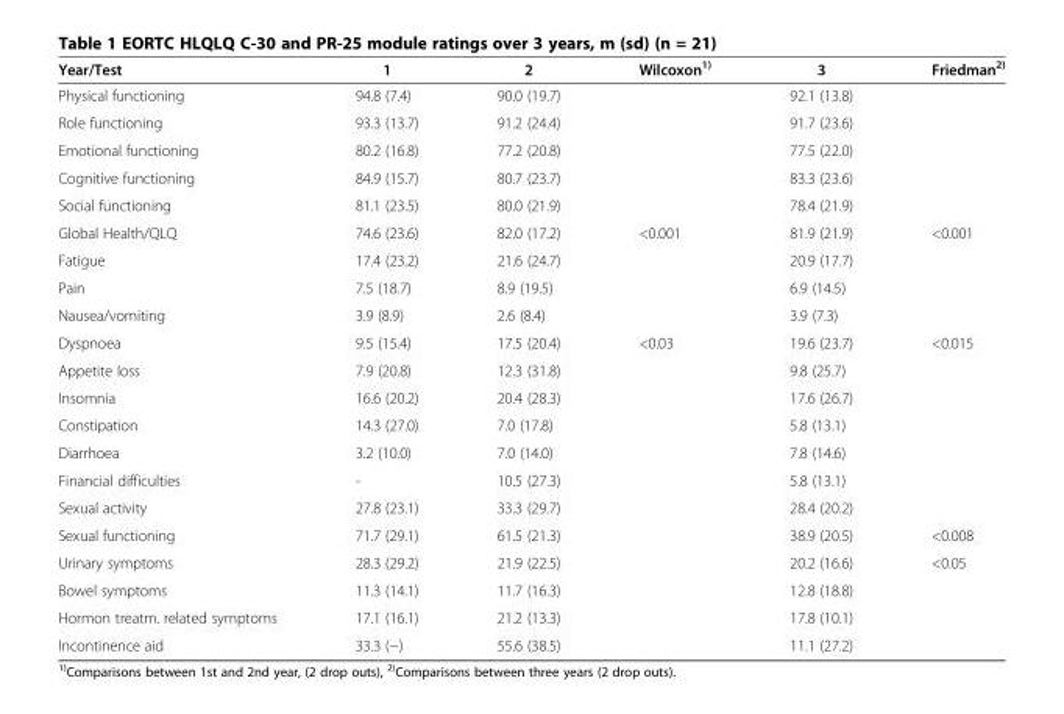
<table><thead><tr><td>Year/Test</td><td>1</td><td>2</td><td>Wilcoxon<sup>1)</sup></td><td>3</td><td>Friedman<sup>2)</sup></td></tr></thead><tbody><tr><td>Physical functioning</td><td>94.8 (7.4)</td><td>90.0 (19.7)</td><td></td><td>92.1 (13.8)</td><td></td></tr><tr><td>Role functioning</td><td>93.3 (13.7)</td><td>91.2 (24.4)</td><td></td><td>91.7 (23.6)</td><td></td></tr><tr><td>Emotional functioning</td><td>80.2 (16.8)</td><td>77.2 (20.8)</td><td></td><td>77.5 (22.0)</td><td></td></tr><tr><td>Cognitive functioning</td><td>84.9 (15.7)</td><td>80.7 (23.7)</td><td></td><td>83.3 (23.6)</td><td></td></tr><tr><td>Social functioning</td><td>81.1 (23.5)</td><td>80.0 (21.9)</td><td></td><td>78.4 (21.9)</td><td></td></tr><tr><td>Global Health/QLQ</td><td>74.6 (23.6)</td><td>82.0 (17.2)</td><td>&lt;0.001</td><td>81.9 (21.9)</td><td>&lt;0.001</td></tr><tr><td>Fatigue</td><td>17.4 (23.2)</td><td>21.6 (24.7)</td><td></td><td>20.9 (17.7)</td><td></td></tr><tr><td>Pain</td><td>7.5 (18.7)</td><td>8.9 (19.5)</td><td></td><td>6.9 (14.5)</td><td></td></tr><tr><td>Nausea/vomiting</td><td>3.9 (8.9)</td><td>2.6 (8.4)</td><td></td><td>3.9 (7.3)</td><td></td></tr><tr><td>Dyspnoea</td><td>9.5 (15.4)</td><td>17.5 (20.4)</td><td>&lt;0.03</td><td>19.6 (23.7)</td><td>&lt;0.015</td></tr><tr><td>Appetite loss</td><td>7.9 (20.8)</td><td>12.3 (31.8)</td><td></td><td>9.8 (25.7)</td><td></td></tr><tr><td>Insomnia</td><td>16.6 (20.2)</td><td>20.4 (28.3)</td><td></td><td>17.6 (26.7)</td><td></td></tr><tr><td>Constipation</td><td>14.3 (27.0)</td><td>7.0 (17.8)</td><td></td><td>5.8 (13.1)</td><td></td></tr><tr><td>Diarrhoea</td><td>3.2 (10.0)</td><td>7.0 (14.0)</td><td></td><td>7.8 (14.6)</td><td></td></tr><tr><td>Financial difficulties</td><td>-</td><td>10.5 (27.3)</td><td></td><td>5.8 (13.1)</td><td></td></tr><tr><td>Sexual activity</td><td>27.8 (23.1)</td><td>33.3 (29.7)</td><td></td><td>28.4 (20.2)</td><td></td></tr><tr><td>Sexual functioning</td><td>71.7 (29.1)</td><td>61.5 (21.3)</td><td></td><td>38.9 (20.5)</td><td>&lt;0.008</td></tr><tr><td>Urinary symptoms</td><td>28.3 (29.2)</td><td>21.9 (22.5)</td><td></td><td>20.2 (16.6)</td><td>&lt;0.05</td></tr><tr><td>Bowel symptoms</td><td>11.3 (14.1)</td><td>11.7 (16.3)</td><td></td><td>12.8 (18.8)</td><td></td></tr><tr><td>Hormon treatm. related symptoms</td><td>17.1 (16.1)</td><td>21.2 (13.3)</td><td></td><td>17.8 (10.1)</td><td></td></tr><tr><td>Incontinence aid</td><td>33.3 (−)</td><td>55.6 (38.5)</td><td></td><td>11.1 (27.2)</td><td></td></tr></tbody></table>